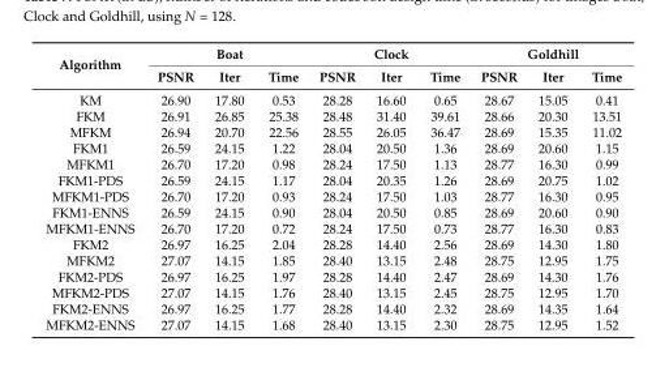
<table><thead><tr><td rowspan="2">Algorithm</td><td colspan="3">Boat</td><td colspan="3">Clock</td><td colspan="3">Goldhill</td></tr><tr><td>PSNR</td><td>Iter</td><td>Time</td><td>PSNR</td><td>Iter</td><td>Time</td><td>PSNR</td><td>Iter</td><td>Time</td></tr></thead><tbody><tr><td>KM</td><td>26.90</td><td>17.80</td><td>0.53</td><td>28.28</td><td>16.60</td><td>0.65</td><td>28.67</td><td>15.05</td><td>0.41</td></tr><tr><td>FKM</td><td>26.91</td><td>26.85</td><td>25.38</td><td>28.48</td><td>31.40</td><td>39.61</td><td>28.66</td><td>20.30</td><td>13.51</td></tr><tr><td>MFKM</td><td>26.94</td><td>20.70</td><td>22.56</td><td>28.55</td><td>26.05</td><td>36.47</td><td>28.69</td><td>15.35</td><td>11.02</td></tr><tr><td>FKM1</td><td>26.59</td><td>24.15</td><td>1.22</td><td>28.04</td><td>20.50</td><td>1.36</td><td>28.69</td><td>20.60</td><td>1.15</td></tr><tr><td>MFKM1</td><td>26.70</td><td>17.20</td><td>0.98</td><td>28.24</td><td>17.50</td><td>1.13</td><td>28.77</td><td>16.30</td><td>0.99</td></tr><tr><td>FKM1-PDS</td><td>26.59</td><td>24.15</td><td>1.17</td><td>28.04</td><td>20.35</td><td>1.26</td><td>28.69</td><td>20.75</td><td>1.02</td></tr><tr><td>MFKM1-PDS</td><td>26.70</td><td>17.20</td><td>0.93</td><td>28.24</td><td>17.50</td><td>1.03</td><td>28.77</td><td>16.30</td><td>0.95</td></tr><tr><td>FKM1-ENNS</td><td>26.59</td><td>24.15</td><td>0.90</td><td>28.04</td><td>20.50</td><td>0.85</td><td>28.69</td><td>20.60</td><td>0.90</td></tr><tr><td>MFKM1-ENNS</td><td>26.70</td><td>17.20</td><td>0.72</td><td>28.24</td><td>17.50</td><td>0.73</td><td>28.77</td><td>16.30</td><td>0.83</td></tr><tr><td>FKM2</td><td>26.97</td><td>16.25</td><td>2.04</td><td>28.28</td><td>14.40</td><td>2.56</td><td>28.69</td><td>14.30</td><td>1.80</td></tr><tr><td>MFKM2</td><td>27.07</td><td>14.15</td><td>1.85</td><td>28.40</td><td>13.15</td><td>2.48</td><td>28.75</td><td>12.95</td><td>1.75</td></tr><tr><td>FKM2-PDS</td><td>26.97</td><td>16.25</td><td>1.97</td><td>28.28</td><td>14.40</td><td>2.47</td><td>28.69</td><td>14.30</td><td>1.76</td></tr><tr><td>MFKM2-PDS</td><td>27.07</td><td>14.15</td><td>1.76</td><td>28.40</td><td>13.15</td><td>2.45</td><td>28.75</td><td>12.95</td><td>1.70</td></tr><tr><td>FKM2-ENNS</td><td>26.97</td><td>16.25</td><td>1.77</td><td>28.28</td><td>14.40</td><td>2.32</td><td>28.69</td><td>14.35</td><td>1.64</td></tr><tr><td>MFKM2-ENNS</td><td>27.07</td><td>14.15</td><td>1.68</td><td>28.40</td><td>13.15</td><td>2.30</td><td>28.75</td><td>12.95</td><td>1.52</td></tr></tbody></table>